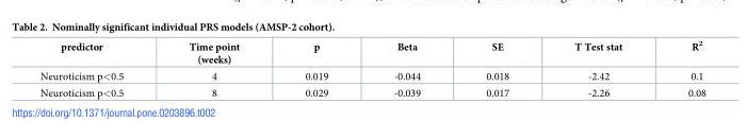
<table><thead><tr><td>predictor</td><td>Time point (weeks)</td><td>p</td><td>Beta</td><td>SE</td><td>T Test stat</td><td>R<sup>2</sup></td></tr></thead><tbody><tr><td>Neuroticism p&lt;0.5</td><td>4</td><td>0.019</td><td>-0.044</td><td>0.018</td><td>-2.42</td><td>0.1</td></tr><tr><td>Neuroticism p&lt;0.5</td><td>8</td><td>0.029</td><td>-0.039</td><td>0.017</td><td>-2.26</td><td>0.08</td></tr></tbody></table>